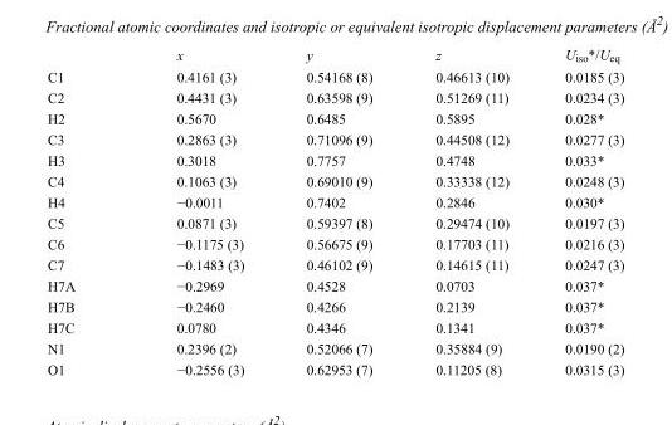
<table><thead><tr><td></td><td>x</td><td>y</td><td>z</td><td>U<sub>iso</sub>*/U<sub>eq</sub></td></tr></thead><tbody><tr><td>C1</td><td>0.4161 (3)</td><td>0.54168 (8)</td><td>0.46613 (10)</td><td>0.0185 (3)</td></tr><tr><td>C2</td><td>0.4431 (3)</td><td>0.63598 (9)</td><td>0.51269 (11)</td><td>0.0234 (3)</td></tr><tr><td>H2</td><td>0.5670</td><td>0.6485</td><td>0.5895</td><td>0.028*</td></tr><tr><td>C3</td><td>0.2863 (3)</td><td>0.71096 (9)</td><td>0.44508 (12)</td><td>0.0277 (3)</td></tr><tr><td>H3</td><td>0.3018</td><td>0.7757</td><td>0.4748</td><td>0.033*</td></tr><tr><td>C4</td><td>0.1063 (3)</td><td>0.69010 (9)</td><td>0.33338 (12)</td><td>0.0248 (3)</td></tr><tr><td>H4</td><td>−0.0011</td><td>0.7402</td><td>0.2846</td><td>0.030*</td></tr><tr><td>C5</td><td>0.0871 (3)</td><td>0.59397 (8)</td><td>0.29474 (10)</td><td>0.0197 (3)</td></tr><tr><td>C6</td><td>−0.1175 (3)</td><td>0.56675 (9)</td><td>0.17703 (11)</td><td>0.0216 (3)</td></tr><tr><td>C7</td><td>−0.1483 (3)</td><td>0.46102 (9)</td><td>0.14615 (11)</td><td>0.0247 (3)</td></tr><tr><td>H7A</td><td>−0.2969</td><td>0.4528</td><td>0.0703</td><td>0.037*</td></tr><tr><td>H7B</td><td>−0.2460</td><td>0.4266</td><td>0.2139</td><td>0.037*</td></tr><tr><td>H7C</td><td>0.0780</td><td>0.4346</td><td>0.1341</td><td>0.037*</td></tr><tr><td>N1</td><td>0.2396 (2)</td><td>0.52066 (7)</td><td>0.35884 (9)</td><td>0.0190 (2)</td></tr><tr><td>O1</td><td>−0.2556 (3)</td><td>0.62953 (7)</td><td>0.11205 (8)</td><td>0.0315 (3)</td></tr></tbody></table>